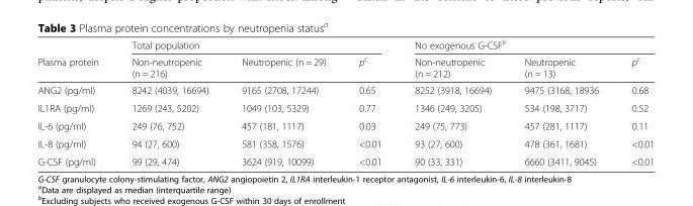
<table><thead><tr><td rowspan="2">Plasma protein</td><td colspan="3">Total population</td><td colspan="3">No exogenous G-CSF<sup>b</sup></td></tr><tr><td>Non-neutropenic (n = 216)</td><td>Neutropenic (n = 29)</td><td>p<sup>c</sup></td><td>Non-neutropenic (n = 212)</td><td>Neutropenic (n = 13)</td><td>p<sup>c</sup></td></tr></thead><tbody><tr><td>ANG2 (pg/ml)</td><td>8242 (4039, 16694)</td><td>9165 (2708, 17244)</td><td>0.65</td><td>8252 (3918, 16694)</td><td>9475 (3168, 18936</td><td>0.68</td></tr><tr><td>IL1RA (pg/ml)</td><td>1269 (243, 5202)</td><td>1049 (103, 5329)</td><td>0.77</td><td>1346 (249, 3205)</td><td>534 (198, 3717)</td><td>0.52</td></tr><tr><td>IL-6 (pg/ml)</td><td>249 (76, 752)</td><td>457 (181, 1117)</td><td>0.03</td><td>249 (75, 773)</td><td>457 (281, 1117)</td><td>0.11</td></tr><tr><td>IL-8 (pg/ml)</td><td>94 (27, 600)</td><td>581 (358, 1576)</td><td>&lt;0.01</td><td>93 (27, 600)</td><td>478 (361, 1681)</td><td>&lt;0.01</td></tr><tr><td>G-CSF (pg/ml)</td><td>99 (29, 474)</td><td>3624 (919, 10099)</td><td>&lt;0.01</td><td>90 (33, 331)</td><td>6660 (3411, 9045)</td><td>&lt;0.01</td></tr></tbody></table>